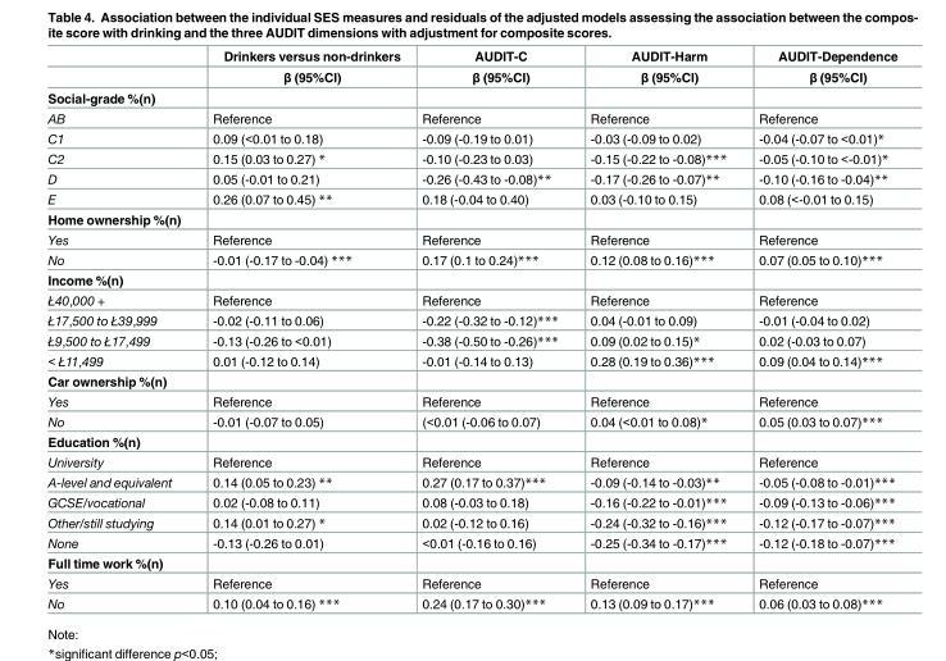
<table><thead><tr><td rowspan="2"></td><td rowspan="2">Drinkers versus non-drinkers β (95%CI)</td><td rowspan="2">AUDIT-C β (95%CI)</td><td rowspan="2">AUDIT-Harm β (95%CI)</td><td rowspan="2">AUDIT-Dependence β (95%CI)</td></tr><tr></tr></thead><tbody><tr><td colspan="5">Social-grade %(n)</td></tr><tr><td>AB</td><td>Reference</td><td>Reference</td><td>Reference</td><td>Reference</td></tr><tr><td>C1</td><td>0.09 (&lt;0.01 to 0.18)</td><td>-0.09 (-0.19 to 0.01)</td><td>-0.03 (-0.09 to 0.02)</td><td>-0.04 (-0.07 to &lt;0.01)*</td></tr><tr><td>C2</td><td>0.15 (0.03 to 0.27) *</td><td>-0.10 (-0.23 to 0.03)</td><td>-0.15 (-0.22 to -0.08)***</td><td>-0.05 (-0.10 to &lt;-0.01)*</td></tr><tr><td>D</td><td>0.05 (-0.01 to 0.21)</td><td>-0.26 (-0.43 to -0.08)**</td><td>-0.17 (-0.26 to -0.07)**</td><td>-0.10 (-0.16 to -0.04)**</td></tr><tr><td>E</td><td>0.26 (0.07 to 0.45) **</td><td>0.18 (-0.04 to 0.40)</td><td>0.03 (-0.10 to 0.15)</td><td>0.08 (&lt;-0.01 to 0.15)</td></tr><tr><td colspan="5">Home ownership %(n)</td></tr><tr><td>Yes</td><td>Reference</td><td>Reference</td><td>Reference</td><td>Reference</td></tr><tr><td>No</td><td>-0.01 (-0.17 to -0.04) ***</td><td>0.17 (0.1 to 0.24)***</td><td>0.12 (0.08 to 0.16)***</td><td>0.07 (0.05 to 0.10)***</td></tr><tr><td colspan="5">Income %(n)</td></tr><tr><td>£40,000 +</td><td>Reference</td><td>Reference</td><td>Reference</td><td>Reference</td></tr><tr><td>£17,500 to £39,999</td><td>-0.02 (-0.11 to 0.06)</td><td>-0.22 (-0.32 to -0.12)***</td><td>0.04 (-0.01 to 0.09)</td><td>-0.01 (-0.04 to 0.02)</td></tr><tr><td>£9,500 to £17,499</td><td>-0.13 (-0.26 to &lt;0.01)</td><td>-0.38 (-0.50 to -0.26)***</td><td>0.09 (0.02 to 0.15)*</td><td>0.02 (-0.03 to 0.07)</td></tr><tr><td>&lt; £11,499</td><td>0.01 (-0.12 to 0.14)</td><td>-0.01 (-0.14 to 0.13)</td><td>0.28 (0.19 to 0.36)***</td><td>0.09 (0.04 to 0.14)***</td></tr><tr><td colspan="5">Car ownership %(n)</td></tr><tr><td>Yes</td><td>Reference</td><td>Reference</td><td>Reference</td><td>Reference</td></tr><tr><td>No</td><td>-0.01 (-0.07 to 0.05)</td><td>(&lt;0.01 (-0.06 to 0.07)</td><td>0.04 (&lt;0.01 to 0.08)*</td><td>0.05 (0.03 to 0.07)***</td></tr><tr><td colspan="5">Education %(n)</td></tr><tr><td>University</td><td>Reference</td><td>Reference</td><td>Reference</td><td>Reference</td></tr><tr><td>A-level and equivalent</td><td>0.14 (0.05 to 0.23) **</td><td>0.27 (0.17 to 0.37)***</td><td>-0.09 (-0.14 to -0.03)**</td><td>-0.05 (-0.08 to -0.01)***</td></tr><tr><td>GCSE/vocational</td><td>0.02 (-0.08 to 0.11)</td><td>0.08 (-0.03 to 0.18)</td><td>-0.16 (-0.22 to -0.01)***</td><td>-0.09 (-0.13 to -0.06)***</td></tr><tr><td>Other/still studying</td><td>0.14 (0.01 to 0.27) *</td><td>0.02 (-0.12 to 0.16)</td><td>-0.24 (-0.32 to -0.16)***</td><td>-0.12 (-0.17 to -0.07)***</td></tr><tr><td>None</td><td>-0.13 (-0.26 to 0.01)</td><td>&lt;0.01 (-0.16 to 0.16)</td><td>-0.25 (-0.34 to -0.17)***</td><td>-0.12 (-0.18 to -0.07)***</td></tr><tr><td colspan="5">Full time work %(n)</td></tr><tr><td>Yes</td><td>Reference</td><td>Reference</td><td>Reference</td><td>Reference</td></tr><tr><td>No</td><td>0.10 (0.04 to 0.16) ***</td><td>0.24 (0.17 to 0.30)***</td><td>0.13 (0.09 to 0.17)***</td><td>0.06 (0.03 to 0.08)***</td></tr></tbody></table>